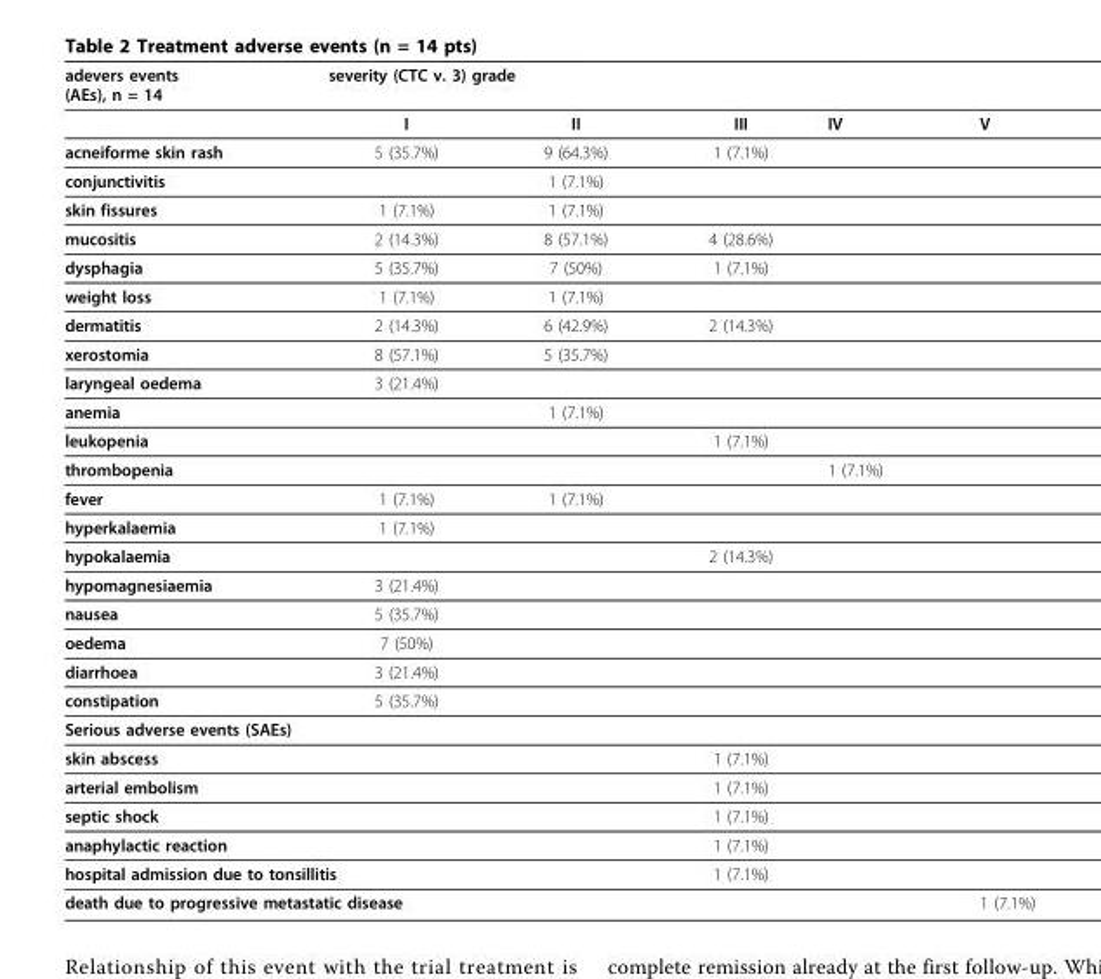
<table><thead><tr><td rowspan="2">adevers events (AEs), n = 14</td><td colspan="3">severity (CTC v. 3) grade</td><td rowspan="2">IV</td><td rowspan="2">V</td></tr><tr><td>I</td><td>II</td><td>III</td></tr></thead><tbody><tr><td>acneiforme skin rash</td><td>5 (35.7%)</td><td>9 (64.3%)</td><td>1 (7.1%)</td><td></td><td></td></tr><tr><td>conjunctivitis</td><td></td><td>1 (7.1%)</td><td></td><td></td><td></td></tr><tr><td>skin fissures</td><td>1 (7.1%)</td><td>1 (7.1%)</td><td></td><td></td><td></td></tr><tr><td>mucositis</td><td>2 (14.3%)</td><td>8 (57.1%)</td><td>4 (28.6%)</td><td></td><td></td></tr><tr><td>dysphagia</td><td>5 (35.7%)</td><td>7 (50%)</td><td>1 (7.1%)</td><td></td><td></td></tr><tr><td>weight loss</td><td>1 (7.1%)</td><td>1 (7.1%)</td><td></td><td></td><td></td></tr><tr><td>dermatitis</td><td>2 (14.3%)</td><td>6 (42.9%)</td><td>2 (14.3%)</td><td></td><td></td></tr><tr><td>xerostomia</td><td>8 (57.1%)</td><td>5 (35.7%)</td><td></td><td></td><td></td></tr><tr><td>laryngeal oedema</td><td>3 (21.4%)</td><td></td><td></td><td></td><td></td></tr><tr><td>anemia</td><td></td><td>1 (7.1%)</td><td></td><td></td><td></td></tr><tr><td>leukopenia</td><td></td><td></td><td>1 (7.1%)</td><td></td><td></td></tr><tr><td>thrombopenia</td><td></td><td></td><td></td><td>1 (7.1%)</td><td></td></tr><tr><td>fever</td><td>1 (7.1%)</td><td>1 (7.1%)</td><td></td><td></td><td></td></tr><tr><td>hyperkalaemia</td><td>1 (7.1%)</td><td></td><td></td><td></td><td></td></tr><tr><td>hypokalaemia</td><td></td><td></td><td>2 (14.3%)</td><td></td><td></td></tr><tr><td>hypomagnesiaemia</td><td>3 (21.4%)</td><td></td><td></td><td></td><td></td></tr><tr><td>nausea</td><td>5 (35.7%)</td><td></td><td></td><td></td><td></td></tr><tr><td>oedema</td><td>7 (50%)</td><td></td><td></td><td></td><td></td></tr><tr><td>diarrhoea</td><td>3 (21.4%)</td><td></td><td></td><td></td><td></td></tr><tr><td>constipation</td><td>5 (35.7%)</td><td></td><td></td><td></td><td></td></tr><tr><td colspan="6">Serious adverse events (SAEs)</td></tr><tr><td>skin abscess</td><td></td><td></td><td>1 (7.1%)</td><td></td><td></td></tr><tr><td>arterial embolism</td><td></td><td></td><td>1 (7.1%)</td><td></td><td></td></tr><tr><td>septic shock</td><td></td><td></td><td>1 (7.1%)</td><td></td><td></td></tr><tr><td colspan="2">anaphylactic reaction</td><td></td><td>1 (7.1%)</td><td></td><td></td></tr><tr><td colspan="3">hospital admission due to tonsillitis</td><td>1 (7.1%)</td><td></td><td></td></tr><tr><td colspan="3">death due to progressive metastatic disease</td><td></td><td></td><td>1 (7.1%)</td></tr></tbody></table>